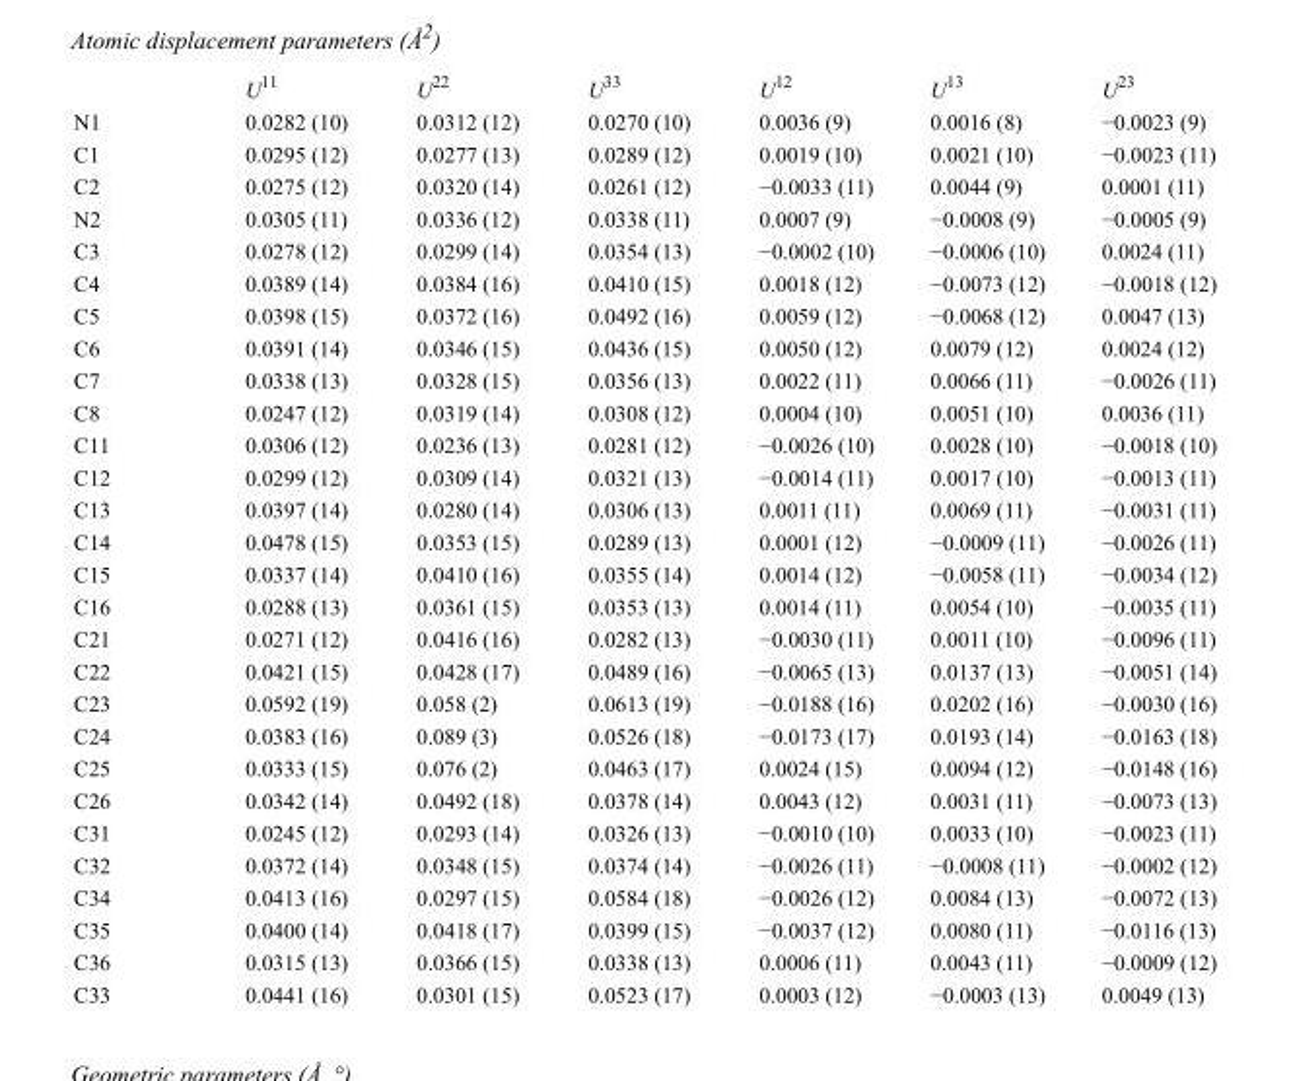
<table><thead><tr><td></td><td>U<sup>11</sup></td><td>U<sup>22</sup></td><td>U<sup>33</sup></td><td>U<sup>12</sup></td><td>U<sup>13</sup></td><td>U<sup>23</sup></td></tr></thead><tbody><tr><td>N1</td><td>0.0282 (10)</td><td>0.0312 (12)</td><td>0.0270 (10)</td><td>0.0036 (9)</td><td>0.0016 (8)</td><td>−0.0023 (9)</td></tr><tr><td>C1</td><td>0.0295 (12)</td><td>0.0277 (13)</td><td>0.0289 (12)</td><td>0.0019 (10)</td><td>0.0021 (10)</td><td>−0.0023 (11)</td></tr><tr><td>C2</td><td>0.0275 (12)</td><td>0.0320 (14)</td><td>0.0261 (12)</td><td>−0.0033 (11)</td><td>0.0044 (9)</td><td>0.0001 (11)</td></tr><tr><td>N2</td><td>0.0305 (11)</td><td>0.0336 (12)</td><td>0.0338 (11)</td><td>0.0007 (9)</td><td>−0.0008 (9)</td><td>−0.0005 (9)</td></tr><tr><td>C3</td><td>0.0278 (12)</td><td>0.0299 (14)</td><td>0.0354 (13)</td><td>−0.0002 (10)</td><td>−0.0006 (10)</td><td>0.0024 (11)</td></tr><tr><td>C4</td><td>0.0389 (14)</td><td>0.0384 (16)</td><td>0.0410 (15)</td><td>0.0018 (12)</td><td>−0.0073 (12)</td><td>−0.0018 (12)</td></tr><tr><td>C5</td><td>0.0398 (15)</td><td>0.0372 (16)</td><td>0.0492 (16)</td><td>0.0059 (12)</td><td>−0.0068 (12)</td><td>0.0047 (13)</td></tr><tr><td>C6</td><td>0.0391 (14)</td><td>0.0346 (15)</td><td>0.0436 (15)</td><td>0.0050 (12)</td><td>0.0079 (12)</td><td>0.0024 (12)</td></tr><tr><td>C7</td><td>0.0338 (13)</td><td>0.0328 (15)</td><td>0.0356 (13)</td><td>0.0022 (11)</td><td>0.0066 (11)</td><td>−0.0026 (11)</td></tr><tr><td>C8</td><td>0.0247 (12)</td><td>0.0319 (14)</td><td>0.0308 (12)</td><td>0.0004 (10)</td><td>0.0051 (10)</td><td>0.0036 (11)</td></tr><tr><td>C11</td><td>0.0306 (12)</td><td>0.0236 (13)</td><td>0.0281 (12)</td><td>−0.0026 (10)</td><td>0.0028 (10)</td><td>−0.0018 (10)</td></tr><tr><td>C12</td><td>0.0299 (12)</td><td>0.0309 (14)</td><td>0.0321 (13)</td><td>−0.0014 (11)</td><td>0.0017 (10)</td><td>−0.0013 (11)</td></tr><tr><td>C13</td><td>0.0397 (14)</td><td>0.0280 (14)</td><td>0.0306 (13)</td><td>0.0011 (11)</td><td>0.0069 (11)</td><td>−0.0031 (11)</td></tr><tr><td>C14</td><td>0.0478 (15)</td><td>0.0353 (15)</td><td>0.0289 (13)</td><td>0.0001 (12)</td><td>−0.0009 (11)</td><td>−0.0026 (11)</td></tr><tr><td>C15</td><td>0.0337 (14)</td><td>0.0410 (16)</td><td>0.0355 (14)</td><td>0.0014 (12)</td><td>−0.0058 (11)</td><td>−0.0034 (12)</td></tr><tr><td>C16</td><td>0.0288 (13)</td><td>0.0361 (15)</td><td>0.0353 (13)</td><td>0.0014 (11)</td><td>0.0054 (10)</td><td>−0.0035 (11)</td></tr><tr><td>C21</td><td>0.0271 (12)</td><td>0.0416 (16)</td><td>0.0282 (13)</td><td>−0.0030 (11)</td><td>0.0011 (10)</td><td>−0.0096 (11)</td></tr><tr><td>C22</td><td>0.0421 (15)</td><td>0.0428 (17)</td><td>0.0489 (16)</td><td>−0.0065 (13)</td><td>0.0137 (13)</td><td>−0.0051 (14)</td></tr><tr><td>C23</td><td>0.0592 (19)</td><td>0.058 (2)</td><td>0.0613 (19)</td><td>−0.0188 (16)</td><td>0.0202 (16)</td><td>−0.0030 (16)</td></tr><tr><td>C24</td><td>0.0383 (16)</td><td>0.089 (3)</td><td>0.0526 (18)</td><td>−0.0173 (17)</td><td>0.0193 (14)</td><td>−0.0163 (18)</td></tr><tr><td>C25</td><td>0.0333 (15)</td><td>0.076 (2)</td><td>0.0463 (17)</td><td>0.0024 (15)</td><td>0.0094 (12)</td><td>−0.0148 (16)</td></tr><tr><td>C26</td><td>0.0342 (14)</td><td>0.0492 (18)</td><td>0.0378 (14)</td><td>0.0043 (12)</td><td>0.0031 (11)</td><td>−0.0073 (13)</td></tr><tr><td>C31</td><td>0.0245 (12)</td><td>0.0293 (14)</td><td>0.0326 (13)</td><td>−0.0010 (10)</td><td>0.0033 (10)</td><td>−0.0023 (11)</td></tr><tr><td>C32</td><td>0.0372 (14)</td><td>0.0348 (15)</td><td>0.0374 (14)</td><td>−0.0026 (11)</td><td>−0.0008 (11)</td><td>−0.0002 (12)</td></tr><tr><td>C34</td><td>0.0413 (16)</td><td>0.0297 (15)</td><td>0.0584 (18)</td><td>−0.0026 (12)</td><td>0.0084 (13)</td><td>−0.0072 (13)</td></tr><tr><td>C35</td><td>0.0400 (14)</td><td>0.0418 (17)</td><td>0.0399 (15)</td><td>−0.0037 (12)</td><td>0.0080 (11)</td><td>−0.0116 (13)</td></tr><tr><td>C36</td><td>0.0315 (13)</td><td>0.0366 (15)</td><td>0.0338 (13)</td><td>0.0006 (11)</td><td>0.0043 (11)</td><td>−0.0009 (12)</td></tr><tr><td>C33</td><td>0.0441 (16)</td><td>0.0301 (15)</td><td>0.0523 (17)</td><td>0.0003 (12)</td><td>−0.0003 (13)</td><td>0.0049 (13)</td></tr></tbody></table>